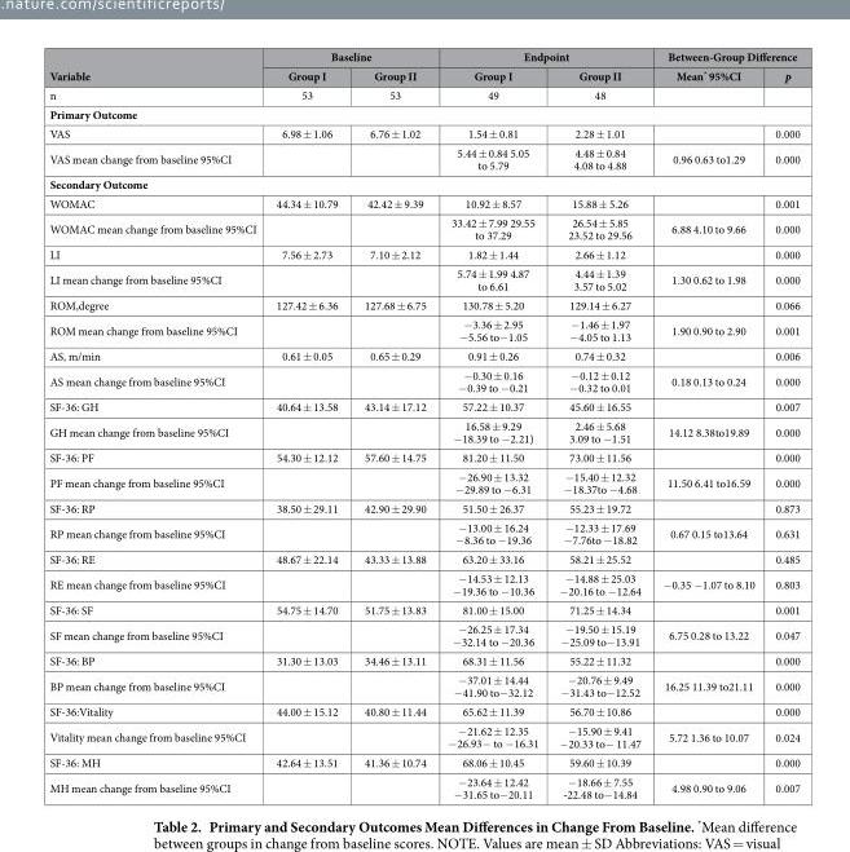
<table><thead><tr><td rowspan="2">Variable</td><td colspan="2">Baseline</td><td colspan="2">Endpoint</td><td colspan="2">Between-Group Difference</td></tr><tr><td>Group I</td><td>Group II</td><td>Group I</td><td>Group II</td><td>Mean* 95%CI</td><td>p</td></tr></thead><tbody><tr><td>n</td><td>53</td><td>53</td><td>49</td><td>48</td><td></td><td></td></tr><tr><td colspan="7">Primary Outcome</td></tr><tr><td>VAS</td><td>6.98 ± 1.06</td><td>6.76 ± 1.02</td><td>1.54 ± 0.81</td><td>2.28 ± 1.01</td><td></td><td>0.000</td></tr><tr><td>VAS mean change from baseline 95%CI</td><td></td><td></td><td>5.44 ± 0.84 5.05 to 5.79</td><td>4.48 ± 0.84 4.08 to 4.88</td><td>0.96 0.63 to1.29</td><td>0.000</td></tr><tr><td colspan="7">Secondary Outcome</td></tr><tr><td>WOMAC</td><td>44.34 ± 10.79</td><td>42.42 ± 9.39</td><td>10.92 ± 8.57</td><td>15.88 ± 5.26</td><td></td><td>0.001</td></tr><tr><td>WOMAC mean change from baseline 95%CI</td><td></td><td></td><td>33.42 ± 7.99 29.55 to 37.29</td><td>26.54 ± 5.85 23.52 to 29.56</td><td>6.88 4.10 to 9.66</td><td>0.000</td></tr><tr><td>LI</td><td>7.56 ± 2.73</td><td>7.10 ± 2.12</td><td>1.82 ± 1.44</td><td>2.66 ± 1.12</td><td></td><td>0.000</td></tr><tr><td>LI mean change from baseline 95%CI</td><td></td><td></td><td>5.74 ± 1.99 4.87 to 6.61</td><td>4.44 ± 1.39 3.57 to 5.02</td><td>1.30 0.62 to 1.98</td><td>0.000</td></tr><tr><td>ROM,degree</td><td>127.42 ± 6.36</td><td>127.68 ± 6.75</td><td>130.78 ± 5.20</td><td>129.14 ± 6.27</td><td></td><td>0.066</td></tr><tr><td>ROM mean change from baseline 95%CI</td><td></td><td></td><td>− 3.36 ± 2.95 − 5.56 to− 1.05</td><td>− 1.46 ± 1.97 − 4.05 to 1.13</td><td>1.90 0.90 to 2.90</td><td>0.001</td></tr><tr><td>AS, m/min</td><td>0.61 ± 0.05</td><td>0.65 ± 0.29</td><td>0.91 ± 0.26</td><td>0.74 ± 0.32</td><td></td><td>0.006</td></tr><tr><td>AS mean change from baseline 95%CI</td><td></td><td></td><td>− 0.30 ± 0.16 − 0.39 to − 0.21</td><td>− 0.12 ± 0.12 − 0.32 to 0.01</td><td>0.18 0.13 to 0.24</td><td>0.000</td></tr><tr><td>SF-36: GH</td><td>40.64 ± 13.58</td><td>43.14 ± 17.12</td><td>57.22 ± 10.37</td><td>45.60 ± 16.55</td><td></td><td>0.007</td></tr><tr><td>GH mean change from baseline 95%CI</td><td></td><td></td><td>16.58 ± 9.29 − 18.39 to − 2.21)</td><td>2.46 ± 5.68 3.09 to − 1.51</td><td>14.12 8.38to19.89</td><td>0.000</td></tr><tr><td>SF-36: PF</td><td>54.30 ± 12.12</td><td>57.60 ± 14.75</td><td>81.20 ± 11.50</td><td>73.00 ± 11.56</td><td></td><td>0.000</td></tr><tr><td>PF mean change from baseline 95%CI</td><td></td><td></td><td>− 26.90 ± 13.32 − 29.89 to − 6.31</td><td>− 15.40 ± 12.32 − 18.37to − 4.68</td><td>11.50 6.41 to16.59</td><td>0.000</td></tr><tr><td>SF-36: RP</td><td>38.50 ± 29.11</td><td>42.90 ± 29.90</td><td>51.50 ± 26.37</td><td>55.23 ± 19.72</td><td></td><td>0.873</td></tr><tr><td>RP mean change from baseline 95%CI</td><td></td><td></td><td>− 13.00 ± 16.24 − 8.36 to − 19.36</td><td>− 12.33 ± 17.69 − 7.76to − 18.82</td><td>0.67 0.15 to13.64</td><td>0.631</td></tr><tr><td>SF-36: RE</td><td>48.67 ± 22.14</td><td>43.33 ± 13.88</td><td>63.20 ± 33.16</td><td>58.21 ± 25.52</td><td></td><td>0.485</td></tr><tr><td>RE mean change from baseline 95%CI</td><td></td><td></td><td>− 14.53 ± 12.13 − 19.36 to − 10.36</td><td>− 14.88 ± 25.03 − 20.16 to − 12.64</td><td>− 0.35 − 1.07 to 8.10</td><td>0.803</td></tr><tr><td>SF-36: SF</td><td>54.75 ± 14.70</td><td>51.75 ± 13.83</td><td>81.00 ± 15.00</td><td>71.25 ± 14.34</td><td></td><td>0.001</td></tr><tr><td>SF mean change from baseline 95%CI</td><td></td><td></td><td>− 26.25 ± 17.34 − 32.14 to − 20.36</td><td>− 19.50 ± 15.19 − 25.09 to− 13.91</td><td>6.75 0.28 to 13.22</td><td>0.047</td></tr><tr><td>SF-36: BP</td><td>31.30 ± 13.03</td><td>34.46 ± 13.11</td><td>68.31 ± 11.56</td><td>55.22 ± 11.32</td><td></td><td>0.000</td></tr><tr><td>BP mean change from baseline 95%CI</td><td></td><td></td><td>− 37.01 ± 14.44 − 41.90 to− 32.12</td><td>− 20.76 ± 9.49 − 31.43 to− 12.52</td><td>16.25 11.39 to21.11</td><td>0.000</td></tr><tr><td>SF-36:Vitality</td><td>44.00 ± 15.12</td><td>40.80 ± 11.44</td><td>65.62 ± 11.39</td><td>56.70 ± 10.86</td><td></td><td>0.000</td></tr><tr><td>Vitality mean change from baseline 95%CI</td><td></td><td></td><td>− 21.62 ± 12.35 − 26.93− to − 16.31</td><td>− 15.90 ± 9.41 − 20.33 to− 11.47</td><td>5.72 1.36 to 10.07</td><td>0.024</td></tr><tr><td>SF-36: MH</td><td>42.64 ± 13.51</td><td>41.36 ± 10.74</td><td>68.06 ± 10.45</td><td>59.60 ± 10.39</td><td></td><td>0.000</td></tr><tr><td>MH mean change from baseline 95%CI</td><td></td><td></td><td>− 23.64 ± 12.42 − 31.65 to− 20.11</td><td>− 18.66 ± 7.55 -22.48 to− 14.84</td><td>4.98 0.90 to 9.06</td><td>0.007</td></tr></tbody></table>